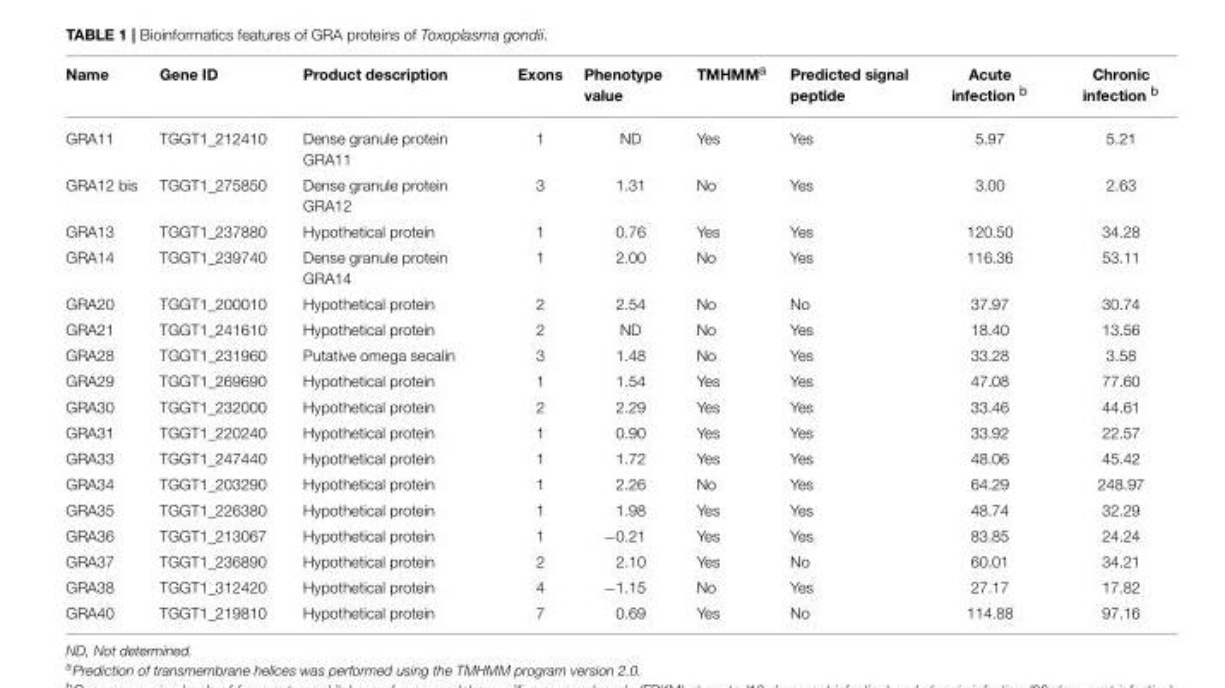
<table><thead><tr><td>Name</td><td>Gene ID</td><td>Product description</td><td>Exons</td><td>Phenotype value</td><td>TMHMM<sup>a</sup></td><td>Predicted signal peptide</td><td>Acute infection <sup>b</sup></td><td>Chronic infection <sup>b</sup></td></tr></thead><tbody><tr><td>GRA11</td><td>TGGT1_212410</td><td>Dense granule protein GRA11</td><td>1</td><td>ND</td><td>Yes</td><td>Yes</td><td>5.97</td><td>5.21</td></tr><tr><td>GRA12 bis</td><td>TGGT1_275850</td><td>Dense granule protein GRA12</td><td>3</td><td>1.31</td><td>No</td><td>Yes</td><td>3.00</td><td>2.63</td></tr><tr><td>GRA13</td><td>TGGT1_237880</td><td>Hypothetical protein</td><td>1</td><td>0.76</td><td>Yes</td><td>Yes</td><td>120.50</td><td>34.28</td></tr><tr><td>GRA14</td><td>TGGT1_239740</td><td>Dense granule protein GRA14</td><td>1</td><td>2.00</td><td>No</td><td>Yes</td><td>116.36</td><td>53.11</td></tr><tr><td>GRA20</td><td>TGGT1_200010</td><td>Hypothetical protein</td><td>2</td><td>2.54</td><td>No</td><td>No</td><td>37.97</td><td>30.74</td></tr><tr><td>GRA21</td><td>TGGT1_241610</td><td>Hypothetical protein</td><td>2</td><td>ND</td><td>No</td><td>Yes</td><td>18.40</td><td>13.56</td></tr><tr><td>GRA28</td><td>TGGT1_231960</td><td>Putative omega secalin</td><td>3</td><td>1.48</td><td>No</td><td>Yes</td><td>33.28</td><td>3.58</td></tr><tr><td>GRA29</td><td>TGGT1_269690</td><td>Hypothetical protein</td><td>1</td><td>1.54</td><td>Yes</td><td>Yes</td><td>47.08</td><td>77.60</td></tr><tr><td>GRA30</td><td>TGGT1_232000</td><td>Hypothetical protein</td><td>2</td><td>2.29</td><td>Yes</td><td>Yes</td><td>33.46</td><td>44.61</td></tr><tr><td>GRA31</td><td>TGGT1_220240</td><td>Hypothetical protein</td><td>1</td><td>0.90</td><td>Yes</td><td>Yes</td><td>33.92</td><td>22.57</td></tr><tr><td>GRA33</td><td>TGGT1_247440</td><td>Hypothetical protein</td><td>1</td><td>1.72</td><td>Yes</td><td>Yes</td><td>48.06</td><td>45.42</td></tr><tr><td>GRA34</td><td>TGGT1_203290</td><td>Hypothetical protein</td><td>1</td><td>2.26</td><td>No</td><td>Yes</td><td>64.29</td><td>248.97</td></tr><tr><td>GRA35</td><td>TGGT1_226380</td><td>Hypothetical protein</td><td>1</td><td>1.98</td><td>Yes</td><td>Yes</td><td>48.74</td><td>32.29</td></tr><tr><td>GRA36</td><td>TGGT1_213067</td><td>Hypothetical protein</td><td>1</td><td>−0.21</td><td>Yes</td><td>Yes</td><td>83.85</td><td>24.24</td></tr><tr><td>GRA37</td><td>TGGT1_236890</td><td>Hypothetical protein</td><td>2</td><td>2.10</td><td>Yes</td><td>No</td><td>60.01</td><td>34.21</td></tr><tr><td>GRA38</td><td>TGGT1_312420</td><td>Hypothetical protein</td><td>4</td><td>−1.15</td><td>No</td><td>Yes</td><td>27.17</td><td>17.82</td></tr><tr><td>GRA40</td><td>TGGT1_219810</td><td>Hypothetical protein</td><td>7</td><td>0.69</td><td>Yes</td><td>No</td><td>114.88</td><td>97.16</td></tr></tbody></table>